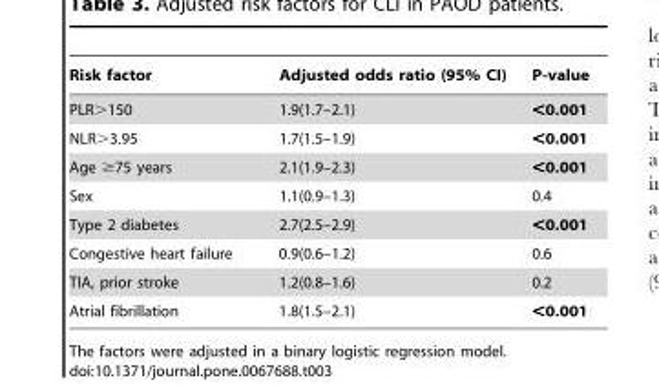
<table><thead><tr><td>Risk factor</td><td>Adjusted odds ratio (95% CI)</td><td>P-value</td></tr></thead><tbody><tr><td>PLR&gt;150</td><td>1.9(1.7–2.1)</td><td>&lt;0.001</td></tr><tr><td>NLR&gt;3.95</td><td>1.7(1.5–1.9)</td><td>&lt;0.001</td></tr><tr><td>Age ≥75 years</td><td>2.1(1.9–2.3)</td><td>&lt;0.001</td></tr><tr><td>Sex</td><td>1.1(0.9–1.3)</td><td>0.4</td></tr><tr><td>Type 2 diabetes</td><td>2.7(2.5–2.9)</td><td>&lt;0.001</td></tr><tr><td>Congestive heart failure</td><td>0.9(0.6–1.2)</td><td>0.6</td></tr><tr><td>TIA, prior stroke</td><td>1.2(0.8–1.6)</td><td>0.2</td></tr><tr><td>Atrial fibrillation</td><td>1.8(1.5–2.1)</td><td>&lt;0.001</td></tr></tbody></table>